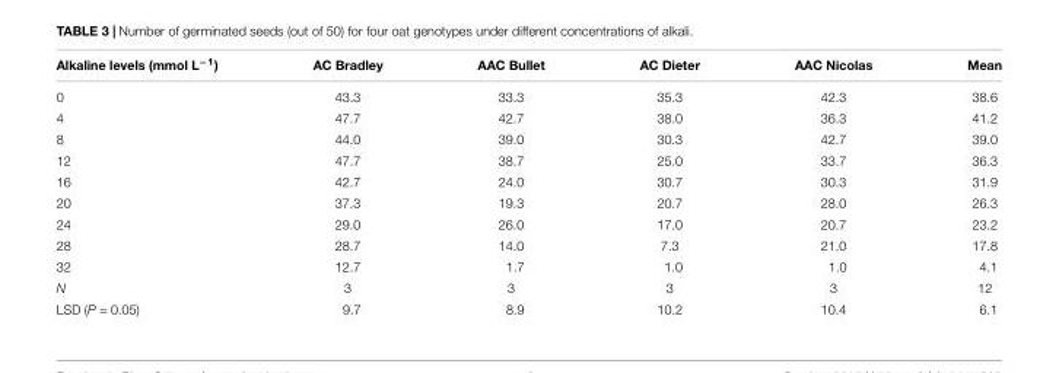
<table><thead><tr><td>Alkaline levels (mmol L<sup>−1</sup>)</td><td>AC Bradley</td><td>AAC Bullet</td><td>AC Dieter</td><td>AAC Nicolas</td><td>Mean</td></tr></thead><tbody><tr><td>0</td><td>43.3</td><td>33.3</td><td>35.3</td><td>42.3</td><td>38.6</td></tr><tr><td>4</td><td>47.7</td><td>42.7</td><td>38.0</td><td>36.3</td><td>41.2</td></tr><tr><td>8</td><td>44.0</td><td>39.0</td><td>30.3</td><td>42.7</td><td>39.0</td></tr><tr><td>12</td><td>47.7</td><td>38.7</td><td>25.0</td><td>33.7</td><td>36.3</td></tr><tr><td>16</td><td>42.7</td><td>24.0</td><td>30.7</td><td>30.3</td><td>31.9</td></tr><tr><td>20</td><td>37.3</td><td>19.3</td><td>20.7</td><td>28.0</td><td>26.3</td></tr><tr><td>24</td><td>29.0</td><td>26.0</td><td>17.0</td><td>20.7</td><td>23.2</td></tr><tr><td>28</td><td>28.7</td><td>14.0</td><td>7.3</td><td>21.0</td><td>17.8</td></tr><tr><td>32</td><td>12.7</td><td>1.7</td><td>1.0</td><td>1.0</td><td>4.1</td></tr><tr><td>N</td><td>3</td><td>3</td><td>3</td><td>3</td><td>12</td></tr><tr><td>LSD (P = 0.05)</td><td>9.7</td><td>8.9</td><td>10.2</td><td>10.4</td><td>6.1</td></tr></tbody></table>